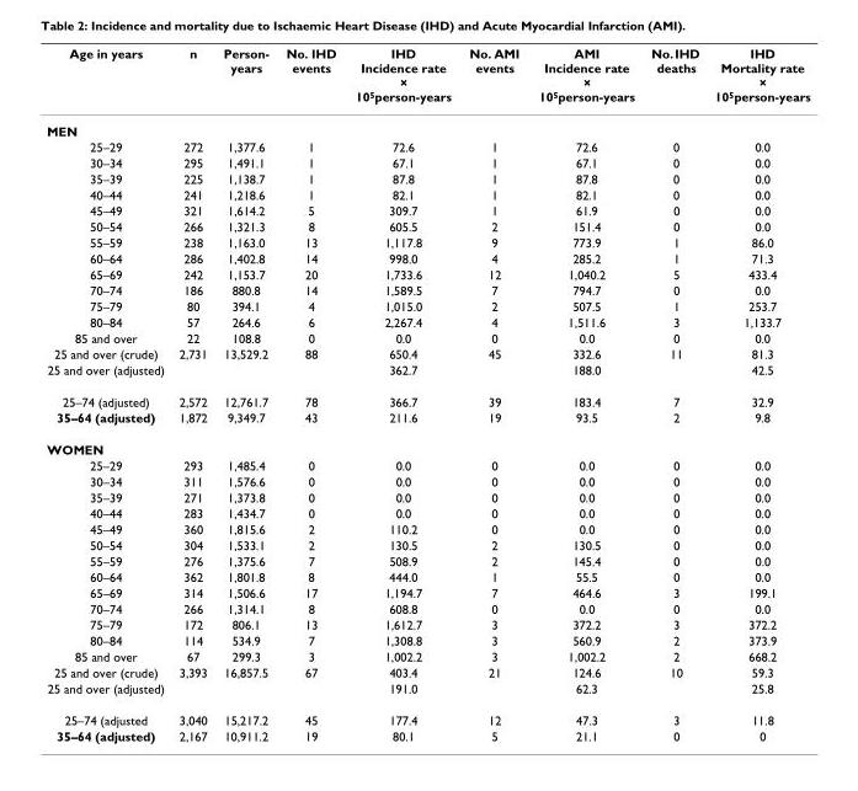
<table><thead><tr><td>Age in years</td><td>n</td><td>Person- years</td><td>No. IHD events</td><td>IHD Incidence rate × 105person-years</td><td>No. AMI events</td><td>AMI Incidence rate × 105person-years</td><td>No. IHD deaths</td><td>IHD Mortality rate × 105person-years</td></tr></thead><tbody><tr><td colspan="9">MEN</td></tr><tr><td>25–29</td><td>272</td><td>1,377.6</td><td>1</td><td>72.6</td><td>1</td><td>72.6</td><td>0</td><td>0.0</td></tr><tr><td>30–34</td><td>295</td><td>1,491.1</td><td>1</td><td>67.1</td><td>1</td><td>67.1</td><td>0</td><td>0.0</td></tr><tr><td>35–39</td><td>225</td><td>1,138.7</td><td>1</td><td>87.8</td><td>1</td><td>87.8</td><td>0</td><td>0.0</td></tr><tr><td>40–44</td><td>241</td><td>1,218.6</td><td>1</td><td>82.1</td><td>1</td><td>82.1</td><td>0</td><td>0.0</td></tr><tr><td>45–49</td><td>321</td><td>1,614.2</td><td>5</td><td>309.7</td><td>1</td><td>61.9</td><td>0</td><td>0.0</td></tr><tr><td>50–54</td><td>266</td><td>1,321.3</td><td>8</td><td>605.5</td><td>2</td><td>151.4</td><td>0</td><td>0.0</td></tr><tr><td>55–59</td><td>238</td><td>1,163.0</td><td>13</td><td>1,117.8</td><td>9</td><td>773.9</td><td>1</td><td>86.0</td></tr><tr><td>60–64</td><td>286</td><td>1,402.8</td><td>14</td><td>998.0</td><td>4</td><td>285.2</td><td>1</td><td>71.3</td></tr><tr><td>65–69</td><td>242</td><td>1,153.7</td><td>20</td><td>1,733.6</td><td>12</td><td>1,040.2</td><td>5</td><td>433.4</td></tr><tr><td>70–74</td><td>186</td><td>880.8</td><td>14</td><td>1,589.5</td><td>7</td><td>794.7</td><td>0</td><td>0.0</td></tr><tr><td>75–79</td><td>80</td><td>394.1</td><td>4</td><td>1,015.0</td><td>2</td><td>507.5</td><td>1</td><td>253.7</td></tr><tr><td>80–84</td><td>57</td><td>264.6</td><td>6</td><td>2,267.4</td><td>4</td><td>1,511.6</td><td>3</td><td>1,133.7</td></tr><tr><td>85 and over</td><td>22</td><td>108.8</td><td>0</td><td>0.0</td><td>0</td><td>0.0</td><td>0</td><td>0.0</td></tr><tr><td>25 and over (crude)</td><td>2,731</td><td>13,529.2</td><td>88</td><td>650.4</td><td>45</td><td>332.6</td><td>11</td><td>81.3</td></tr><tr><td>25 and over (adjusted)</td><td></td><td></td><td></td><td>362.7</td><td></td><td>188.0</td><td></td><td>42.5</td></tr><tr><td>25–74 (adjusted)</td><td>2,572</td><td>12,761.7</td><td>78</td><td>366.7</td><td>39</td><td>183.4</td><td>7</td><td>32.9</td></tr><tr><td>35–64 (adjusted)</td><td>1,872</td><td>9,349.7</td><td>43</td><td>211.6</td><td>19</td><td>93.5</td><td>2</td><td>9.8</td></tr><tr><td colspan="9">WOMEN</td></tr><tr><td>25–29</td><td>293</td><td>1,485.4</td><td>0</td><td>0.0</td><td>0</td><td>0.0</td><td>0</td><td>0.0</td></tr><tr><td>30–34</td><td>311</td><td>1,576.6</td><td>0</td><td>0.0</td><td>0</td><td>0.0</td><td>0</td><td>0.0</td></tr><tr><td>35–39</td><td>271</td><td>1,373.8</td><td>0</td><td>0.0</td><td>0</td><td>0.0</td><td>0</td><td>0.0</td></tr><tr><td>40–44</td><td>283</td><td>1,434.7</td><td>0</td><td>0.0</td><td>0</td><td>0.0</td><td>0</td><td>0.0</td></tr><tr><td>45–49</td><td>360</td><td>1,815.6</td><td>2</td><td>110.2</td><td>0</td><td>0.0</td><td>0</td><td>0.0</td></tr><tr><td>50–54</td><td>304</td><td>1,533.1</td><td>2</td><td>130.5</td><td>2</td><td>130.5</td><td>0</td><td>0.0</td></tr><tr><td>55–59</td><td>276</td><td>1,375.6</td><td>7</td><td>508.9</td><td>2</td><td>145.4</td><td>0</td><td>0.0</td></tr><tr><td>60–64</td><td>362</td><td>1,801.8</td><td>8</td><td>444.0</td><td>1</td><td>55.5</td><td>0</td><td>0.0</td></tr><tr><td>65–69</td><td>314</td><td>1,506.6</td><td>17</td><td>1,194.7</td><td>7</td><td>464.6</td><td>3</td><td>199.1</td></tr><tr><td>70–74</td><td>266</td><td>1,314.1</td><td>8</td><td>608.8</td><td>0</td><td>0.0</td><td>0</td><td>0.0</td></tr><tr><td>75–79</td><td>172</td><td>806.1</td><td>13</td><td>1,612.7</td><td>3</td><td>372.2</td><td>3</td><td>372.2</td></tr><tr><td>80–84</td><td>114</td><td>534.9</td><td>7</td><td>1,308.8</td><td>3</td><td>560.9</td><td>2</td><td>373.9</td></tr><tr><td>85 and over</td><td>67</td><td>299.3</td><td>3</td><td>1,002.2</td><td>3</td><td>1,002.2</td><td>2</td><td>668.2</td></tr><tr><td>25 and over (crude)</td><td>3,393</td><td>16,857.5</td><td>67</td><td>403.4</td><td>21</td><td>124.6</td><td>10</td><td>59.3</td></tr><tr><td>25 and over (adjusted)</td><td></td><td></td><td></td><td>191.0</td><td></td><td>62.3</td><td></td><td>25.8</td></tr><tr><td>25–74 (adjusted</td><td>3,040</td><td>15,217.2</td><td>45</td><td>177.4</td><td>12</td><td>47.3</td><td>3</td><td>11.8</td></tr><tr><td>35–64 (adjusted)</td><td>2,167</td><td>10,911.2</td><td>19</td><td>80.1</td><td>5</td><td>21.1</td><td>0</td><td>0</td></tr></tbody></table>